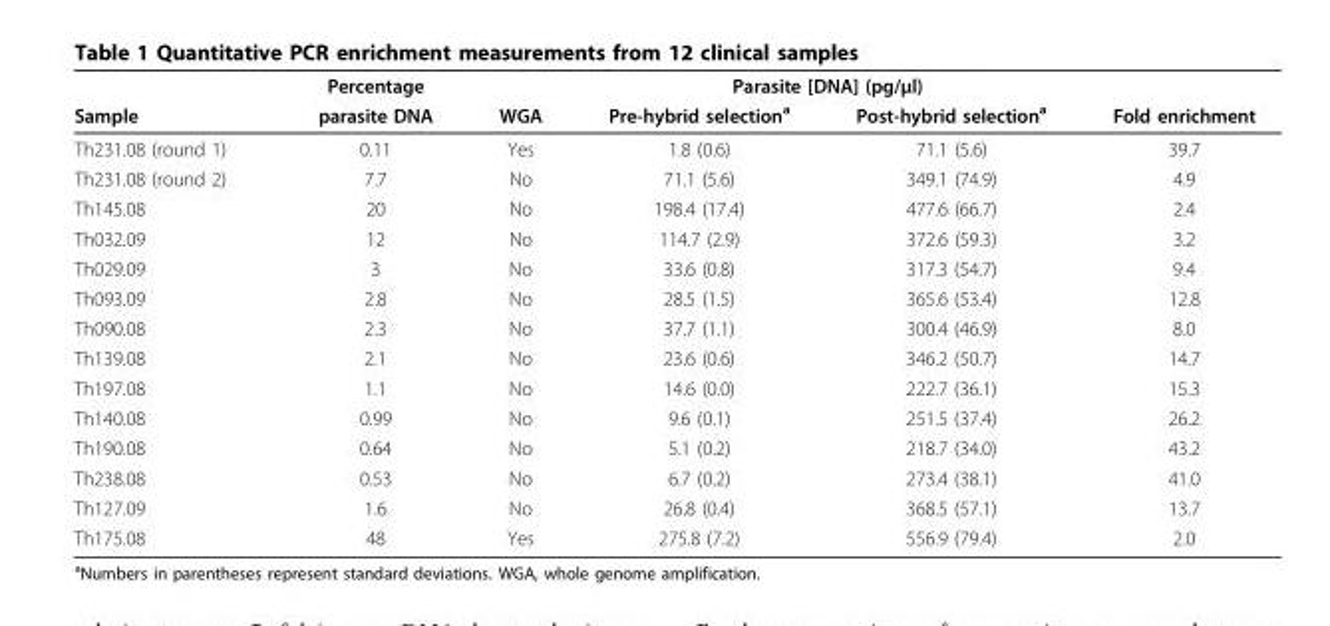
<table><thead><tr><td rowspan="2">Sample</td><td rowspan="2">Percentage parasite DNA</td><td rowspan="2">WGA</td><td colspan="2">Parasite [DNA] (pg/μl)</td><td rowspan="2">Fold enrichment</td></tr><tr><td>Pre-hybrid selection<sup>a</sup></td><td>Post-hybrid selection<sup>a</sup></td></tr></thead><tbody><tr><td>Th231.08 (round 1)</td><td>0.11</td><td>Yes</td><td>1.8 (0.6)</td><td>71.1 (5.6)</td><td>39.7</td></tr><tr><td>Th231.08 (round 2)</td><td>7.7</td><td>No</td><td>71.1 (5.6)</td><td>349.1 (74.9)</td><td>4.9</td></tr><tr><td>Th145.08</td><td>20</td><td>No</td><td>198.4 (17.4)</td><td>477.6 (66.7)</td><td>2.4</td></tr><tr><td>Th032.09</td><td>12</td><td>No</td><td>114.7 (2.9)</td><td>372.6 (59.3)</td><td>3.2</td></tr><tr><td>Th029.09</td><td>3</td><td>No</td><td>33.6 (0.8)</td><td>317.3 (54.7)</td><td>9.4</td></tr><tr><td>Th093.09</td><td>2.8</td><td>No</td><td>28.5 (1.5)</td><td>365.6 (53.4)</td><td>12.8</td></tr><tr><td>Th090.08</td><td>2.3</td><td>No</td><td>37.7 (1.1)</td><td>300.4 (46.9)</td><td>8.0</td></tr><tr><td>Th139.08</td><td>2.1</td><td>No</td><td>23.6 (0.6)</td><td>346.2 (50.7)</td><td>14.7</td></tr><tr><td>Th197.08</td><td>1.1</td><td>No</td><td>14.6 (0.0)</td><td>222.7 (36.1)</td><td>15.3</td></tr><tr><td>Th140.08</td><td>0.99</td><td>No</td><td>9.6 (0.1)</td><td>251.5 (37.4)</td><td>26.2</td></tr><tr><td>Th190.08</td><td>0.64</td><td>No</td><td>5.1 (0.2)</td><td>218.7 (34.0)</td><td>43.2</td></tr><tr><td>Th238.08</td><td>0.53</td><td>No</td><td>6.7 (0.2)</td><td>273.4 (38.1)</td><td>41.0</td></tr><tr><td>Th127.09</td><td>1.6</td><td>No</td><td>26.8 (0.4)</td><td>368.5 (57.1)</td><td>13.7</td></tr><tr><td>Th175.08</td><td>48</td><td>Yes</td><td>275.8 (7.2)</td><td>556.9 (79.4)</td><td>2.0</td></tr></tbody></table>